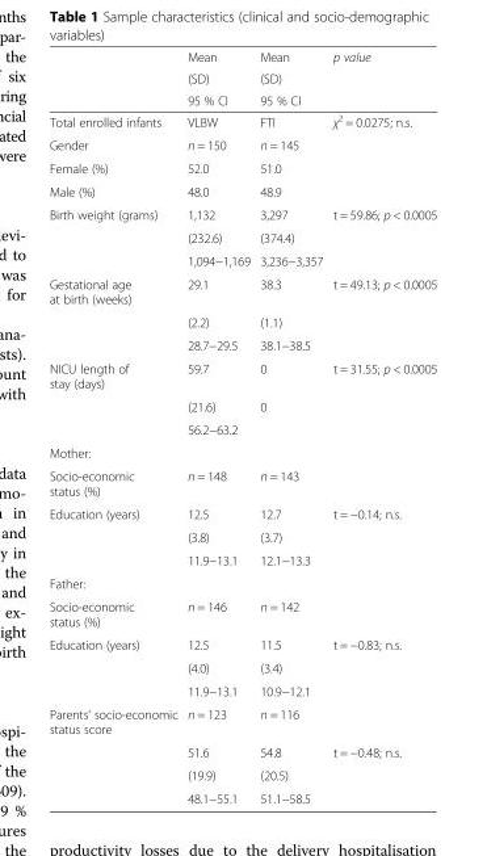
<table><thead><tr><td rowspan="3"></td><td rowspan="3">Mean (SD) 95 % CI</td><td rowspan="3">Mean (SD) 95 % CI</td><td rowspan="3">p value</td></tr><tr></tr><tr></tr></thead><tbody><tr><td>Total enrolled infants</td><td>VLBW</td><td>FTI</td><td>χ<sup>2</sup> = 0.0275; n.s.</td></tr><tr><td>Gender</td><td>n = 150</td><td>n = 145</td><td></td></tr><tr><td>Female (%)</td><td>52.0</td><td>51.0</td><td></td></tr><tr><td>Male (%)</td><td>48.0</td><td>48.9</td><td></td></tr><tr><td rowspan="3">Birth weight (grams)</td><td>1,132</td><td>3,297</td><td>t = 59.86; p &lt; 0.0005</td></tr><tr><td>(232.6)</td><td>(374.4)</td><td></td></tr><tr><td>1,094−1,169</td><td>3,236−3,357</td><td></td></tr><tr><td rowspan="3">Gestational age at birth (weeks)</td><td>29.1</td><td>38.3</td><td>t = 49.13; p &lt; 0.0005</td></tr><tr><td>(2.2)</td><td>(1.1)</td><td></td></tr><tr><td>28.7−29.5</td><td>38.1−38.5</td><td></td></tr><tr><td rowspan="3">NICU length of stay (days)</td><td>59.7</td><td>0</td><td>t = 31.55; p &lt; 0.0005</td></tr><tr><td>(21.6)</td><td>0</td><td></td></tr><tr><td>56.2−63.2</td><td></td><td></td></tr><tr><td colspan="4">Mother:</td></tr><tr><td>Socio-economic status (%)</td><td>n = 148</td><td>n = 143</td><td></td></tr><tr><td rowspan="3">Education (years)</td><td>12.5</td><td>12.7</td><td>t = −0.14; n.s.</td></tr><tr><td>(3.8)</td><td>(3.7)</td><td></td></tr><tr><td>11.9−13.1</td><td>12.1−13.3</td><td></td></tr><tr><td colspan="4">Father:</td></tr><tr><td>Socio-economic status (%)</td><td>n = 146</td><td>n = 142</td><td></td></tr><tr><td rowspan="3">Education (years)</td><td>12.5</td><td>11.5</td><td>t = −0.83; n.s.</td></tr><tr><td>(4.0)</td><td>(3.4)</td><td></td></tr><tr><td>11.9−13.1</td><td>10.9−12.1</td><td></td></tr><tr><td rowspan="4">Parents’ socio-economic status score</td><td>n = 123</td><td>n = 116</td><td></td></tr><tr><td>51.6</td><td>54.8</td><td>t = −0.48; n.s.</td></tr><tr><td>(19.9)</td><td>(20.5)</td><td></td></tr><tr><td>48.1−55.1</td><td>51.1−58.5</td><td></td></tr></tbody></table>